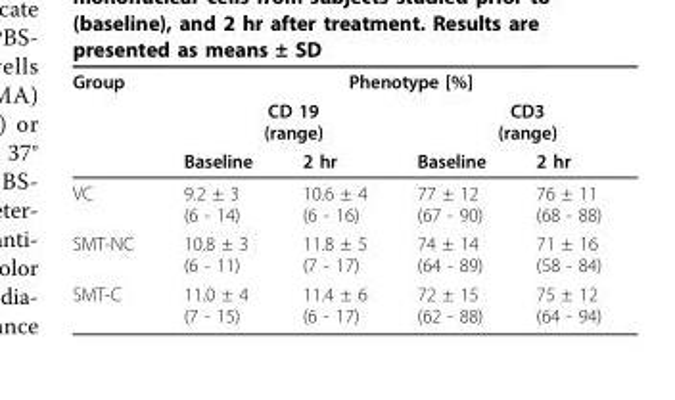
<table><thead><tr><td rowspan="3">Group</td><td colspan="4">Phenotype [%]</td></tr><tr><td colspan="2">CD 19 (range)</td><td colspan="2">CD3 (range)</td></tr><tr><td>Baseline</td><td>2 hr</td><td>Baseline</td><td>2 hr</td></tr></thead><tbody><tr><td>VC</td><td>9.2 ± 3 (6 - 14)</td><td>10.6 ± 4 (6 - 16)</td><td>77 ± 12 (67 - 90)</td><td>76 ± 11 (68 - 88)</td></tr><tr><td>SMT-NC</td><td>10.8 ± 3 (6 - 11)</td><td>11.8 ± 5 (7 - 17)</td><td>74 ± 14 (64 - 89)</td><td>71 ± 16 (58 - 84)</td></tr><tr><td>SMT-C</td><td>11.0 ± 4 (7 - 15)</td><td>11.4 ± 6 (6 - 17)</td><td>72 ± 15 (62 - 88)</td><td>75 ± 12 (64 - 94)</td></tr></tbody></table>